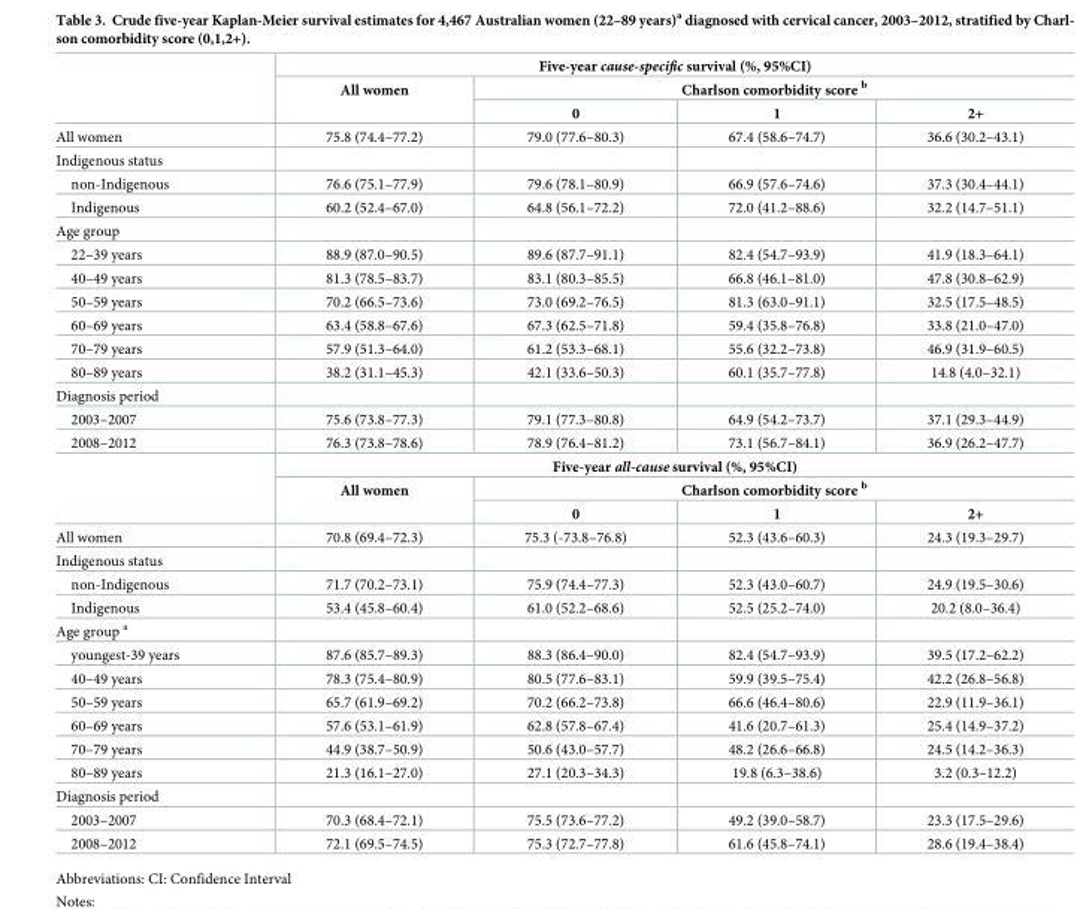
<table><thead><tr><td rowspan="3"></td><td colspan="4">Five-year cause-specific survival (%, 95%CI)</td></tr><tr><td rowspan="2">All women</td><td colspan="3">Charlson comorbidity score <sup>b</sup></td></tr><tr><td>0</td><td>1</td><td>2+</td></tr></thead><tbody><tr><td>All women</td><td>75.8 (74.4–77.2)</td><td>79.0 (77.6–80.3)</td><td>67.4 (58.6–74.7)</td><td>36.6 (30.2–43.1)</td></tr><tr><td colspan="5">Indigenous status</td></tr><tr><td>non-Indigenous</td><td>76.6 (75.1–77.9)</td><td>79.6 (78.1–80.9)</td><td>66.9 (57.6–74.6)</td><td>37.3 (30.4–44.1)</td></tr><tr><td>Indigenous</td><td>60.2 (52.4–67.0)</td><td>64.8 (56.1–72.2)</td><td>72.0 (41.2–88.6)</td><td>32.2 (14.7–51.1)</td></tr><tr><td colspan="5">Age group</td></tr><tr><td>22–39 years</td><td>88.9 (87.0–90.5)</td><td>89.6 (87.7–91.1)</td><td>82.4 (54.7–93.9)</td><td>41.9 (18.3–64.1)</td></tr><tr><td>40–49 years</td><td>81.3 (78.5–83.7)</td><td>83.1 (80.3–85.5)</td><td>66.8 (46.1–81.0)</td><td>47.8 (30.8–62.9)</td></tr><tr><td>50–59 years</td><td>70.2 (66.5–73.6)</td><td>73.0 (69.2–76.5)</td><td>81.3 (63.0–91.1)</td><td>32.5 (17.5–48.5)</td></tr><tr><td>60–69 years</td><td>63.4 (58.8–67.6)</td><td>67.3 (62.5–71.8)</td><td>59.4 (35.8–76.8)</td><td>33.8 (21.0–47.0)</td></tr><tr><td>70–79 years</td><td>57.9 (51.3–64.0)</td><td>61.2 (53.3–68.1)</td><td>55.6 (32.2–73.8)</td><td>46.9 (31.9–60.5)</td></tr><tr><td>80–89 years</td><td>38.2 (31.1–45.3)</td><td>42.1 (33.6–50.3)</td><td>60.1 (35.7–77.8)</td><td>14.8 (4.0–32.1)</td></tr><tr><td colspan="5">Diagnosis period</td></tr><tr><td>2003–2007</td><td>75.6 (73.8–77.3)</td><td>79.1 (77.3–80.8)</td><td>64.9 (54.2–73.7)</td><td>37.1 (29.3–44.9)</td></tr><tr><td rowspan="4">2008–2012</td><td>76.3 (73.8–78.6)</td><td>78.9 (76.4–81.2)</td><td>73.1 (56.7–84.1)</td><td>36.9 (26.2–47.7)</td></tr><tr><td colspan="4">Five-year all-cause survival (%, 95%CI)</td></tr><tr><td rowspan="2">All women</td><td colspan="3">Charlson comorbidity score <sup>b</sup></td></tr><tr><td>0</td><td>1</td><td>2+</td></tr><tr><td>All women</td><td>70.8 (69.4–72.3)</td><td>75.3 (-73.8–76.8)</td><td>52.3 (43.6–60.3)</td><td>24.3 (19.3–29.7)</td></tr><tr><td colspan="5">Indigenous status</td></tr><tr><td>non-Indigenous</td><td>71.7 (70.2–73.1)</td><td>75.9 (74.4–77.3)</td><td>52.3 (43.0–60.7)</td><td>24.9 (19.5–30.6)</td></tr><tr><td>Indigenous</td><td>53.4 (45.8–60.4)</td><td>61.0 (52.2–68.6)</td><td>52.5 (25.2–74.0)</td><td>20.2 (8.0–36.4)</td></tr><tr><td colspan="5">Age group <sup>a</sup></td></tr><tr><td>youngest-39 years</td><td>87.6 (85.7–89.3)</td><td>88.3 (86.4–90.0)</td><td>82.4 (54.7–93.9)</td><td>39.5 (17.2–62.2)</td></tr><tr><td>40–49 years</td><td>78.3 (75.4–80.9)</td><td>80.5 (77.6–83.1)</td><td>59.9 (39.5–75.4)</td><td>42.2 (26.8–56.8)</td></tr><tr><td>50–59 years</td><td>65.7 (61.9–69.2)</td><td>70.2 (66.2–73.8)</td><td>66.6 (46.4–80.6)</td><td>22.9 (11.9–36.1)</td></tr><tr><td>60–69 years</td><td>57.6 (53.1–61.9)</td><td>62.8 (57.8–67.4)</td><td>41.6 (20.7–61.3)</td><td>25.4 (14.9–37.2)</td></tr><tr><td>70–79 years</td><td>44.9 (38.7–50.9)</td><td>50.6 (43.0–57.7)</td><td>48.2 (26.6–66.8)</td><td>24.5 (14.2–36.3)</td></tr><tr><td>80–89 years</td><td>21.3 (16.1–27.0)</td><td>27.1 (20.3–34.3)</td><td>19.8 (6.3–38.6)</td><td>3.2 (0.3–12.2)</td></tr><tr><td colspan="5">Diagnosis period</td></tr><tr><td>2003–2007</td><td>70.3 (68.4–72.1)</td><td>75.5 (73.6–77.2)</td><td>49.2 (39.0–58.7)</td><td>23.3 (17.5–29.6)</td></tr><tr><td>2008–2012</td><td>72.1 (69.5–74.5)</td><td>75.3 (72.7–77.8)</td><td>61.6 (45.8–74.1)</td><td>28.6 (19.4–38.4)</td></tr></tbody></table>